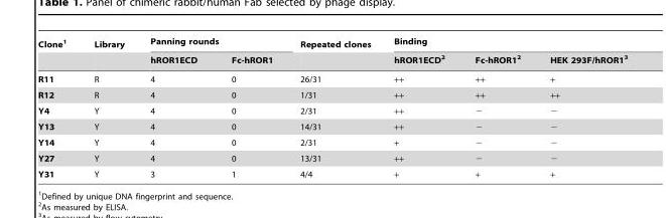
<table><thead><tr><td rowspan="2">Clone<sup>1</sup></td><td rowspan="2">Library</td><td colspan="2">Panning rounds</td><td rowspan="2">Repeated clones</td><td colspan="3">Binding</td></tr><tr><td>hROR1ECD</td><td>Fc-hROR1</td><td>hROR1ECD<sup>2</sup></td><td>Fc-hROR1<sup>2</sup></td><td>HEK 293F/hROR1<sup>3</sup></td></tr></thead><tbody><tr><td>R11</td><td>R</td><td>4</td><td>0</td><td>26/31</td><td>++</td><td>++</td><td>+</td></tr><tr><td>R12</td><td>R</td><td>4</td><td>0</td><td>1/31</td><td>++</td><td>++</td><td>++</td></tr><tr><td>Y4</td><td>Y</td><td>4</td><td>0</td><td>2/31</td><td>++</td><td>−</td><td>−</td></tr><tr><td>Y13</td><td>Y</td><td>4</td><td>0</td><td>14/31</td><td>++</td><td>−</td><td>−</td></tr><tr><td>Y14</td><td>Y</td><td>4</td><td>0</td><td>2/31</td><td>+</td><td>−</td><td>−</td></tr><tr><td>Y27</td><td>Y</td><td>4</td><td>0</td><td>13/31</td><td>++</td><td>−</td><td>−</td></tr><tr><td>Y31</td><td>Y</td><td>3</td><td>1</td><td>4/4</td><td>+</td><td>+</td><td>+</td></tr></tbody></table>